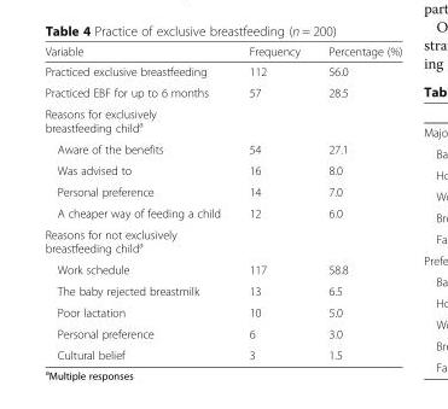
<table><thead><tr><td>Variable</td><td>Frequency</td><td>Percentage (%)</td></tr></thead><tbody><tr><td>Practiced exclusive breastfeeding</td><td>112</td><td>56.0</td></tr><tr><td>Practiced EBF for up to 6 months</td><td>57</td><td>28.5</td></tr><tr><td colspan="3">Reasons for exclusively breastfeeding child<sup>a</sup></td></tr><tr><td>Aware of the benefits</td><td>54</td><td>27.1</td></tr><tr><td>Was advised to</td><td>16</td><td>8.0</td></tr><tr><td>Personal preference</td><td>14</td><td>7.0</td></tr><tr><td>A cheaper way of feeding a child</td><td>12</td><td>6.0</td></tr><tr><td colspan="3">Reasons for not exclusively breastfeeding child<sup>a</sup></td></tr><tr><td>Work schedule</td><td>117</td><td>58.8</td></tr><tr><td>The baby rejected breastmilk</td><td>13</td><td>6.5</td></tr><tr><td>Poor lactation</td><td>10</td><td>5.0</td></tr><tr><td>Personal preference</td><td>6</td><td>3.0</td></tr><tr><td>Cultural belief</td><td>3</td><td>1.5</td></tr></tbody></table>